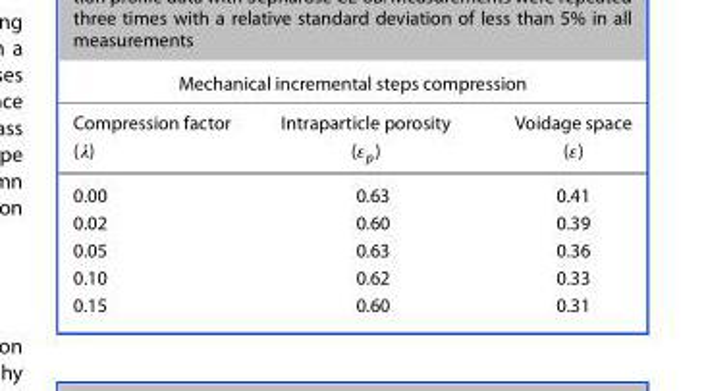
<table><thead><tr><td colspan="3">Mechanical incremental steps compression</td></tr><tr><td rowspan="2">Compression factor (𝜆)</td><td rowspan="2">Intraparticle porosity (𝜀<sub>p</sub>)</td><td rowspan="2">Voidage space (𝜀)</td></tr><tr></tr></thead><tbody><tr><td>0.00</td><td>0.63</td><td>0.41</td></tr><tr><td>0.02</td><td>0.60</td><td>0.39</td></tr><tr><td>0.05</td><td>0.63</td><td>0.36</td></tr><tr><td>0.10</td><td>0.62</td><td>0.33</td></tr><tr><td>0.15</td><td>0.60</td><td>0.31</td></tr></tbody></table>